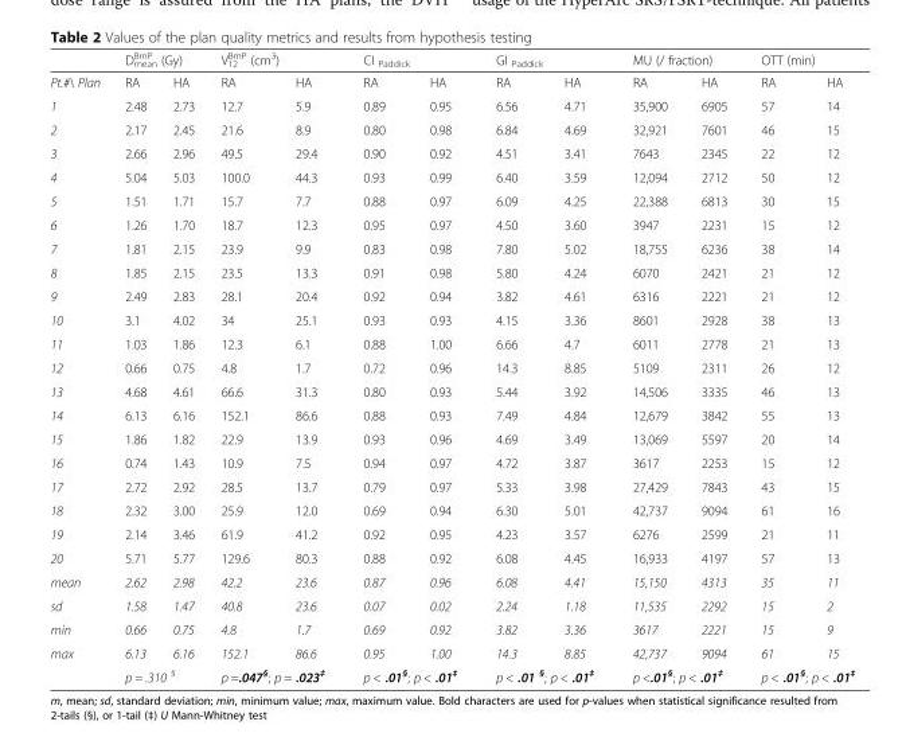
<table><thead><tr><td rowspan="2">Pt.#\ Plan</td><td colspan="2">D<sub>mean</sub> <sup>BmP</sup> (Gy)</td><td colspan="2">V<sub>12</sub> <sup>BmP</sup> (cm<sup>3</sup>)</td><td colspan="2">CI <sub>Paddick</sub></td><td colspan="2">GI <sub>Paddick</sub></td><td colspan="2">MU (/ fraction)</td><td colspan="2">OTT (min)</td></tr><tr><td>RA</td><td>HA</td><td>RA</td><td>HA</td><td>RA</td><td>HA</td><td>RA</td><td>HA</td><td>RA</td><td>HA</td><td>RA</td><td>HA</td></tr></thead><tbody><tr><td>1</td><td>2.48</td><td>2.73</td><td>12.7</td><td>5.9</td><td>0.89</td><td>0.95</td><td>6.56</td><td>4.71</td><td>35,900</td><td>6905</td><td>57</td><td>14</td></tr><tr><td>2</td><td>2.17</td><td>2.45</td><td>21.6</td><td>8.9</td><td>0.80</td><td>0.98</td><td>6.84</td><td>4.69</td><td>32,921</td><td>7601</td><td>46</td><td>15</td></tr><tr><td>3</td><td>2.66</td><td>2.96</td><td>49.5</td><td>29.4</td><td>0.90</td><td>0.92</td><td>4.51</td><td>3.41</td><td>7643</td><td>2345</td><td>22</td><td>12</td></tr><tr><td>4</td><td>5.04</td><td>5.03</td><td>100.0</td><td>44.3</td><td>0.93</td><td>0.99</td><td>6.40</td><td>3.59</td><td>12,094</td><td>2712</td><td>50</td><td>12</td></tr><tr><td>5</td><td>1.51</td><td>1.71</td><td>15.7</td><td>7.7</td><td>0.88</td><td>0.97</td><td>6.09</td><td>4.25</td><td>22,388</td><td>6813</td><td>30</td><td>15</td></tr><tr><td>6</td><td>1.26</td><td>1.70</td><td>18.7</td><td>12.3</td><td>0.95</td><td>0.97</td><td>4.50</td><td>3.60</td><td>3947</td><td>2231</td><td>15</td><td>12</td></tr><tr><td>7</td><td>1.81</td><td>2.15</td><td>23.9</td><td>9.9</td><td>0.83</td><td>0.98</td><td>7.80</td><td>5.02</td><td>18,755</td><td>6236</td><td>38</td><td>14</td></tr><tr><td>8</td><td>1.85</td><td>2.15</td><td>23.5</td><td>13.3</td><td>0.91</td><td>0.98</td><td>5.80</td><td>4.24</td><td>6070</td><td>2421</td><td>21</td><td>12</td></tr><tr><td>9</td><td>2.49</td><td>2.83</td><td>28.1</td><td>20.4</td><td>0.92</td><td>0.94</td><td>3.82</td><td>4.61</td><td>6316</td><td>2221</td><td>21</td><td>12</td></tr><tr><td>10</td><td>3.1</td><td>4.02</td><td>34</td><td>25.1</td><td>0.93</td><td>0.93</td><td>4.15</td><td>3.36</td><td>8601</td><td>2928</td><td>38</td><td>13</td></tr><tr><td>11</td><td>1.03</td><td>1.86</td><td>12.3</td><td>6.1</td><td>0.88</td><td>1.00</td><td>6.66</td><td>4.7</td><td>6011</td><td>2778</td><td>21</td><td>13</td></tr><tr><td>12</td><td>0.66</td><td>0.75</td><td>4.8</td><td>1.7</td><td>0.72</td><td>0.96</td><td>14.3</td><td>8.85</td><td>5109</td><td>2311</td><td>26</td><td>12</td></tr><tr><td>13</td><td>4.68</td><td>4.61</td><td>66.6</td><td>31.3</td><td>0.80</td><td>0.93</td><td>5.44</td><td>3.92</td><td>14,506</td><td>3335</td><td>46</td><td>13</td></tr><tr><td>14</td><td>6.13</td><td>6.16</td><td>152.1</td><td>86.6</td><td>0.88</td><td>0.93</td><td>7.49</td><td>4.84</td><td>12,679</td><td>3842</td><td>55</td><td>13</td></tr><tr><td>15</td><td>1.86</td><td>1.82</td><td>22.9</td><td>13.9</td><td>0.93</td><td>0.96</td><td>4.69</td><td>3.49</td><td>13,069</td><td>5597</td><td>20</td><td>14</td></tr><tr><td>16</td><td>0.74</td><td>1.43</td><td>10.9</td><td>7.5</td><td>0.94</td><td>0.97</td><td>4.72</td><td>3.87</td><td>3617</td><td>2253</td><td>15</td><td>12</td></tr><tr><td>17</td><td>2.72</td><td>2.92</td><td>28.5</td><td>13.7</td><td>0.79</td><td>0.97</td><td>5.33</td><td>3.98</td><td>27,429</td><td>7843</td><td>43</td><td>15</td></tr><tr><td>18</td><td>2.32</td><td>3.00</td><td>25.9</td><td>12.0</td><td>0.69</td><td>0.94</td><td>6.30</td><td>5.01</td><td>42,737</td><td>9094</td><td>61</td><td>16</td></tr><tr><td>19</td><td>2.14</td><td>3.46</td><td>61.9</td><td>41.2</td><td>0.92</td><td>0.95</td><td>4.23</td><td>3.57</td><td>6276</td><td>2599</td><td>21</td><td>11</td></tr><tr><td>20</td><td>5.71</td><td>5.77</td><td>129.6</td><td>80.3</td><td>0.88</td><td>0.92</td><td>6.08</td><td>4.45</td><td>16,933</td><td>4197</td><td>57</td><td>13</td></tr><tr><td>mean</td><td>2.62</td><td>2.98</td><td>42.2</td><td>23.6</td><td>0.87</td><td>0.96</td><td>6.08</td><td>4.41</td><td>15,150</td><td>4313</td><td>35</td><td>11</td></tr><tr><td>sd</td><td>1.58</td><td>1.47</td><td>40.8</td><td>23.6</td><td>0.07</td><td>0.02</td><td>2.24</td><td>1.18</td><td>11,535</td><td>2292</td><td>15</td><td>2</td></tr><tr><td>min</td><td>0.66</td><td>0.75</td><td>4.8</td><td>1.7</td><td>0.69</td><td>0.92</td><td>3.82</td><td>3.36</td><td>3617</td><td>2221</td><td>15</td><td>9</td></tr><tr><td rowspan="2">max</td><td>6.13</td><td>6.16</td><td>152.1</td><td>86.6</td><td>0.95</td><td>1.00</td><td>14.3</td><td>8.85</td><td>42,737</td><td>9094</td><td>61</td><td>15</td></tr><tr><td colspan="2">p = .310 <sup>§</sup></td><td colspan="2">p =.047<sup>§</sup>; p = .023<sup>‡</sup></td><td colspan="2">p &lt; .01<sup>§</sup>; p &lt; .01<sup>‡</sup></td><td colspan="2">p &lt; .01 <sup>§</sup>; p &lt; .01<sup>‡</sup></td><td colspan="2">p &lt;.01<sup>§</sup>; p &lt; .01<sup>‡</sup></td><td colspan="2">p &lt; .01<sup>§</sup>; p &lt; .01<sup>‡</sup></td></tr></tbody></table>